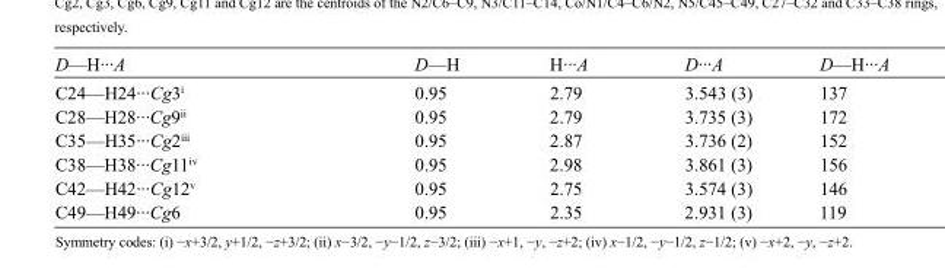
<table><tbody><tr><td>D—H···A</td><td>D—H</td><td>H···A</td><td>D···A</td><td>D—H···A</td></tr><tr><td>C24—H24···Cg3<sup>i</sup></td><td>0.95</td><td>2.79</td><td>3.543 (3)</td><td>137</td></tr><tr><td>C28—H28···Cg9<sup>ii</sup></td><td>0.95</td><td>2.79</td><td>3.735 (3)</td><td>172</td></tr><tr><td>C35—H35···Cg2<sup>iii</sup></td><td>0.95</td><td>2.87</td><td>3.736 (2)</td><td>152</td></tr><tr><td>C38—H38···Cg11<sup>iv</sup></td><td>0.95</td><td>2.98</td><td>3.861 (3)</td><td>156</td></tr><tr><td>C42—H42···Cg12<sup>v</sup></td><td>0.95</td><td>2.75</td><td>3.574 (3)</td><td>146</td></tr><tr><td>C49—H49···Cg6</td><td>0.95</td><td>2.35</td><td>2.931 (3)</td><td>119</td></tr></tbody></table>